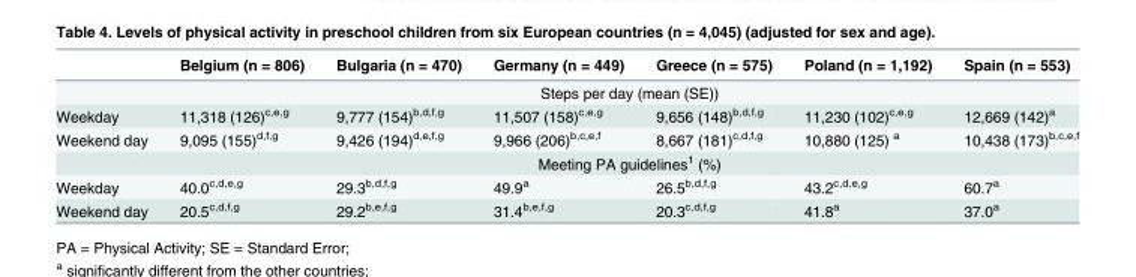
<table><thead><tr><td></td><td>Belgium (n = 806)</td><td>Bulgaria (n = 470)</td><td>Germany (n = 449)</td><td>Greece (n = 575)</td><td>Poland (n = 1,192)</td><td>Spain (n = 553)</td></tr></thead><tbody><tr><td></td><td colspan="6">Steps per day (mean (SE))</td></tr><tr><td>Weekday</td><td>11,318 (126)<sup>c,e,g</sup></td><td>9,777 (154)<sup>b,d,f,g</sup></td><td>11,507 (158)<sup>c,e,g</sup></td><td>9,656 (148)<sup>b,d,f,g</sup></td><td>11,230 (102)<sup>c,e,g</sup></td><td>12,669 (142)<sup>a</sup></td></tr><tr><td rowspan="2">Weekend day</td><td>9,095 (155)<sup>d,f,g</sup></td><td>9,426 (194)<sup>d,e,f,g</sup></td><td>9,966 (206)<sup>b,c,e,f</sup></td><td>8,667 (181)<sup>c,d,f,g</sup></td><td>10,880 (125) <sup>a</sup></td><td>10,438 (173)<sup>b,c,e,f</sup></td></tr><tr><td colspan="6">Meeting PA guidelines<sup>1</sup> (%)</td></tr><tr><td>Weekday</td><td>40.0<sup>c,d,e,g</sup></td><td>29.3<sup>b,d,f,g</sup></td><td>49.9<sup>a</sup></td><td>26.5<sup>b,d,f,g</sup></td><td>43.2<sup>c,d,e,g</sup></td><td>60.7<sup>a</sup></td></tr><tr><td>Weekend day</td><td>20.5<sup>c,d,f,g</sup></td><td>29.2<sup>b,e,f,g</sup></td><td>31.4<sup>b,e,f,g</sup></td><td>20.3<sup>c,d,f,g</sup></td><td>41.8<sup>a</sup></td><td>37.0<sup>a</sup></td></tr></tbody></table>